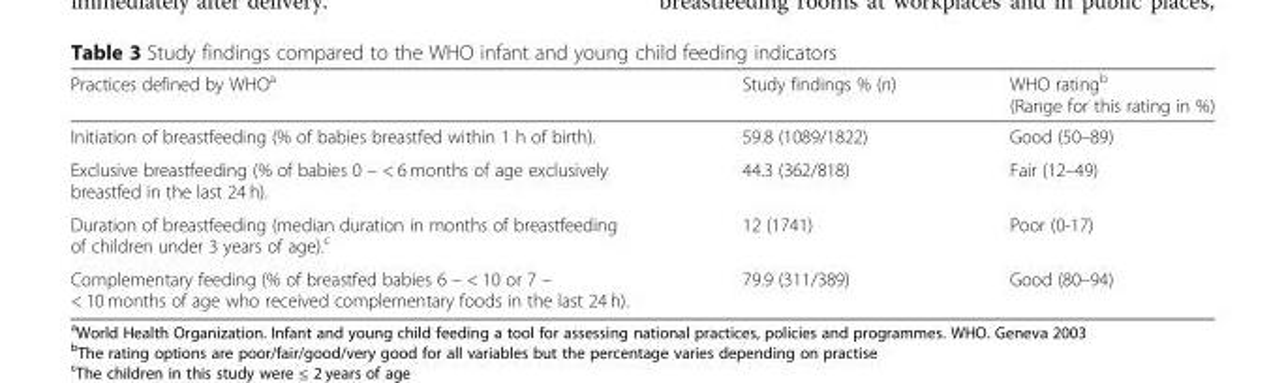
<table><thead><tr><td>Practices defined by WHO<sup>a</sup></td><td>Study findings % (n)</td><td>WHO rating<sup>b</sup> (Range for this rating in %)</td></tr></thead><tbody><tr><td>Initiation of breastfeeding (% of babies breastfed within 1 h of birth).</td><td>59.8 (1089/1822)</td><td>Good (50–89)</td></tr><tr><td>Exclusive breastfeeding (% of babies 0 – &lt; 6 months of age exclusively breastfed in the last 24 h).</td><td>44.3 (362/818)</td><td>Fair (12–49)</td></tr><tr><td>Duration of breastfeeding (median duration in months of breastfeeding of children under 3 years of age).<sup>c</sup></td><td>12 (1741)</td><td>Poor (0-17)</td></tr><tr><td>Complementary feeding (% of breastfed babies 6 – &lt; 10 or 7 – &lt; 10 months of age who received complementary foods in the last 24 h).</td><td>79.9 (311/389)</td><td>Good (80–94)</td></tr></tbody></table>